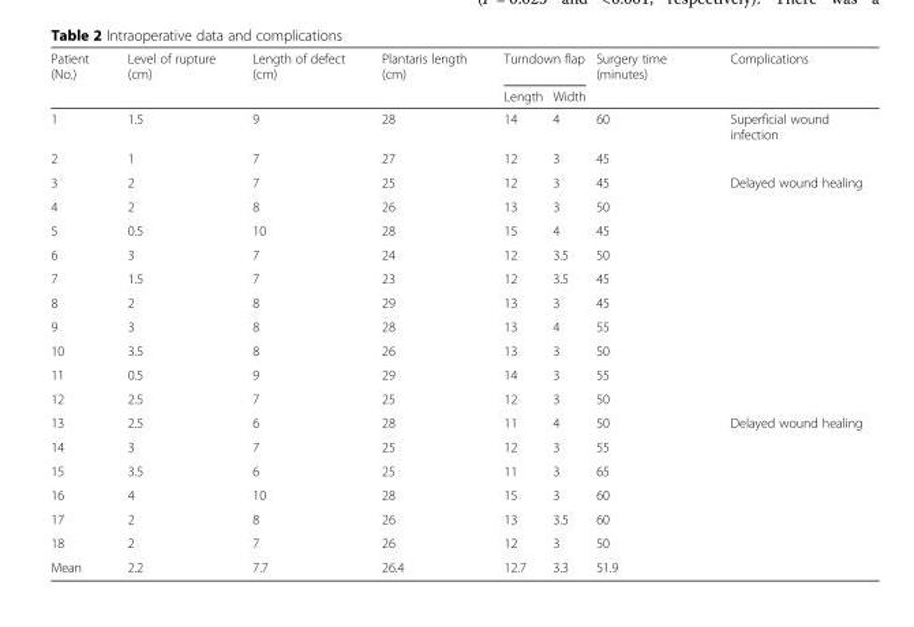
<table><thead><tr><td rowspan="2">Patient (No.)</td><td rowspan="2">Level of rupture (cm)</td><td rowspan="2">Length of defect (cm)</td><td rowspan="2">Plantaris length (cm)</td><td colspan="2">Turndown flap</td><td rowspan="2">Surgery time (minutes)</td><td rowspan="2">Complications</td></tr><tr><td>Length</td><td>Width</td></tr></thead><tbody><tr><td>1</td><td>1.5</td><td>9</td><td>28</td><td>14</td><td>4</td><td>60</td><td>Superficial wound infection</td></tr><tr><td>2</td><td>1</td><td>7</td><td>27</td><td>12</td><td>3</td><td>45</td><td></td></tr><tr><td>3</td><td>2</td><td>7</td><td>25</td><td>12</td><td>3</td><td>45</td><td>Delayed wound healing</td></tr><tr><td>4</td><td>2</td><td>8</td><td>26</td><td>13</td><td>3</td><td>50</td><td></td></tr><tr><td>5</td><td>0.5</td><td>10</td><td>28</td><td>15</td><td>4</td><td>45</td><td></td></tr><tr><td>6</td><td>3</td><td>7</td><td>24</td><td>12</td><td>3.5</td><td>50</td><td></td></tr><tr><td>7</td><td>1.5</td><td>7</td><td>23</td><td>12</td><td>3.5</td><td>45</td><td></td></tr><tr><td>8</td><td>2</td><td>8</td><td>29</td><td>13</td><td>3</td><td>45</td><td></td></tr><tr><td>9</td><td>3</td><td>8</td><td>28</td><td>13</td><td>4</td><td>55</td><td></td></tr><tr><td>10</td><td>3.5</td><td>8</td><td>26</td><td>13</td><td>3</td><td>50</td><td></td></tr><tr><td>11</td><td>0.5</td><td>9</td><td>29</td><td>14</td><td>3</td><td>55</td><td></td></tr><tr><td>12</td><td>2.5</td><td>7</td><td>25</td><td>12</td><td>3</td><td>50</td><td></td></tr><tr><td>13</td><td>2.5</td><td>6</td><td>28</td><td>11</td><td>4</td><td>50</td><td>Delayed wound healing</td></tr><tr><td>14</td><td>3</td><td>7</td><td>25</td><td>12</td><td>3</td><td>55</td><td></td></tr><tr><td>15</td><td>3.5</td><td>6</td><td>25</td><td>11</td><td>3</td><td>65</td><td></td></tr><tr><td>16</td><td>4</td><td>10</td><td>28</td><td>15</td><td>3</td><td>60</td><td></td></tr><tr><td>17</td><td>2</td><td>8</td><td>26</td><td>13</td><td>3.5</td><td>60</td><td></td></tr><tr><td>18</td><td>2</td><td>7</td><td>26</td><td>12</td><td>3</td><td>50</td><td></td></tr><tr><td>Mean</td><td>2.2</td><td>7.7</td><td>26.4</td><td>12.7</td><td>3.3</td><td>51.9</td><td></td></tr></tbody></table>